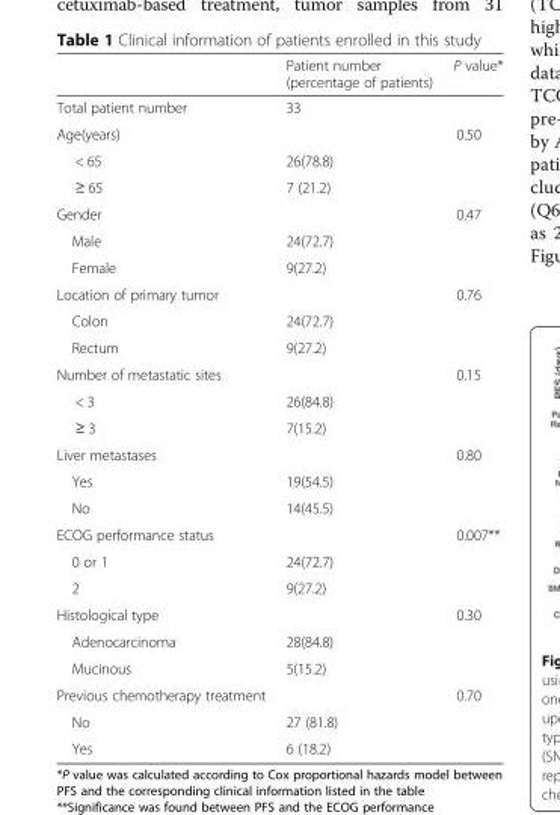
<table><thead><tr><td></td><td>Patient number (percentage of patients)</td><td>P value*</td></tr></thead><tbody><tr><td>Total patient number</td><td>33</td><td></td></tr><tr><td>Age(years)</td><td></td><td>0.50</td></tr><tr><td>&lt; 65</td><td>26(78.8)</td><td></td></tr><tr><td>≥ 65</td><td>7 (21.2)</td><td></td></tr><tr><td>Gender</td><td></td><td>0.47</td></tr><tr><td>Male</td><td>24(72.7)</td><td></td></tr><tr><td>Female</td><td>9(27.2)</td><td></td></tr><tr><td>Location of primary tumor</td><td></td><td>0.76</td></tr><tr><td>Colon</td><td>24(72.7)</td><td></td></tr><tr><td>Rectum</td><td>9(27.2)</td><td></td></tr><tr><td>Number of metastatic sites</td><td></td><td>0.15</td></tr><tr><td>&lt; 3</td><td>26(84.8)</td><td></td></tr><tr><td>≥ 3</td><td>7(15.2)</td><td></td></tr><tr><td>Liver metastases</td><td></td><td>0.80</td></tr><tr><td>Yes</td><td>19(54.5)</td><td></td></tr><tr><td>No</td><td>14(45.5)</td><td></td></tr><tr><td>ECOG performance status</td><td></td><td>0.007**</td></tr><tr><td>0 or 1</td><td>24(72.7)</td><td></td></tr><tr><td>2</td><td>9(27.2)</td><td></td></tr><tr><td>Histological type</td><td></td><td>0.30</td></tr><tr><td>Adenocarcinoma</td><td>28(84.8)</td><td></td></tr><tr><td>Mucinous</td><td>5(15.2)</td><td></td></tr><tr><td>Previous chemotherapy treatment</td><td></td><td>0.70</td></tr><tr><td>No</td><td>27 (81.8)</td><td></td></tr><tr><td>Yes</td><td>6 (18.2)</td><td></td></tr></tbody></table>